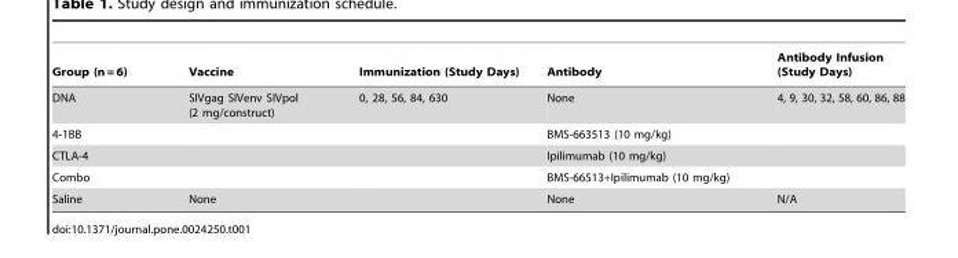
<table><thead><tr><td>Group (n = 6)</td><td>Vaccine</td><td>Immunization (Study Days)</td><td>Antibody</td><td>Antibody Infusion (Study Days)</td></tr></thead><tbody><tr><td>DNA</td><td>SIVgag SIVenv SIVpol (2 mg/construct)</td><td>0, 28, 56, 84, 630</td><td>None</td><td>4, 9, 30, 32, 58, 60, 86, 88</td></tr><tr><td>4-1BB</td><td></td><td></td><td>BMS-663513 (10 mg/kg)</td><td></td></tr><tr><td>CTLA-4</td><td></td><td></td><td>Ipilimumab (10 mg/kg)</td><td></td></tr><tr><td>Combo</td><td></td><td></td><td>BMS-66513+Ipilimumab (10 mg/kg)</td><td></td></tr><tr><td>Saline</td><td>None</td><td></td><td>None</td><td>N/A</td></tr></tbody></table>